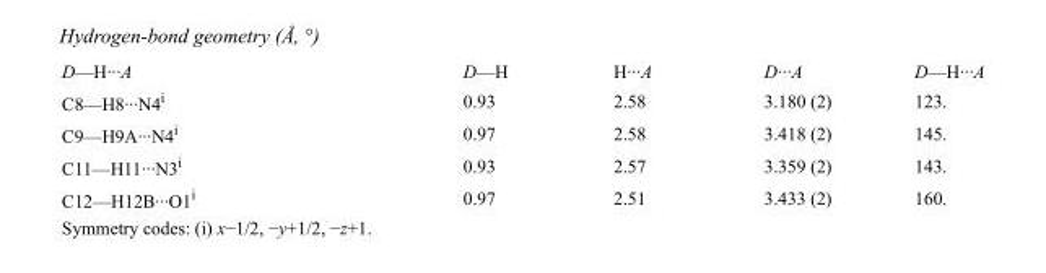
<table><tbody><tr><td>D—H···A</td><td>D—H</td><td>H···A</td><td>D···A</td><td>D—H···A</td></tr><tr><td>C8—H8···N4<sup>i</sup></td><td>0.93</td><td>2.58</td><td>3.180 (2)</td><td>123.</td></tr><tr><td>C9—H9A···N4<sup>i</sup></td><td>0.97</td><td>2.58</td><td>3.418 (2)</td><td>145.</td></tr><tr><td>C11—H11···N3<sup>i</sup></td><td>0.93</td><td>2.57</td><td>3.359 (2)</td><td>143.</td></tr><tr><td>C12—H12B···O1<sup>i</sup></td><td>0.97</td><td>2.51</td><td>3.433 (2)</td><td>160.</td></tr></tbody></table>